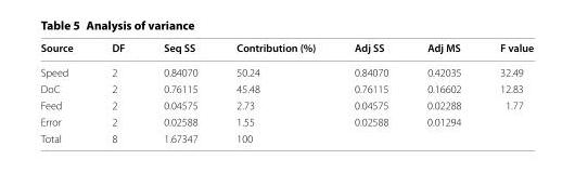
<table><thead><tr><td>Source</td><td>DF</td><td>Seq SS</td><td>Contribution (%)</td><td>Adj SS</td><td>Adj MS</td><td>F value</td></tr></thead><tbody><tr><td>Speed</td><td>2</td><td>0.84070</td><td>50.24</td><td>0.84070</td><td>0.42035</td><td>32.49</td></tr><tr><td>DoC</td><td>2</td><td>0.76115</td><td>45.48</td><td>0.76115</td><td>0.16602</td><td>12.83</td></tr><tr><td>Feed</td><td>2</td><td>0.04575</td><td>2.73</td><td>0.04575</td><td>0.02288</td><td>1.77</td></tr><tr><td>Error</td><td>2</td><td>0.02588</td><td>1.55</td><td>0.02588</td><td>0.01294</td><td></td></tr><tr><td>Total</td><td>8</td><td>1.67347</td><td>100</td><td></td><td></td><td></td></tr></tbody></table>